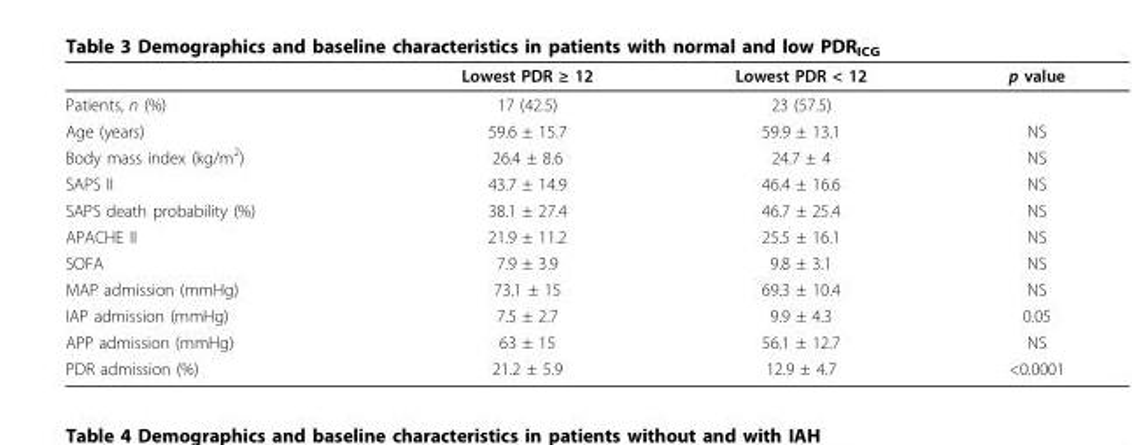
<table><thead><tr><td></td><td>Lowest PDR ≥ 12</td><td>Lowest PDR &lt; 12</td><td>p value</td></tr></thead><tbody><tr><td>Patients, n (%)</td><td>17 (42.5)</td><td>23 (57.5)</td><td></td></tr><tr><td>Age (years)</td><td>59.6 ± 15.7</td><td>59.9 ± 13.1</td><td>NS</td></tr><tr><td>Body mass index (kg/m<sup>2</sup>)</td><td>26.4 ± 8.6</td><td>24.7 ± 4</td><td>NS</td></tr><tr><td>SAPS II</td><td>43.7 ± 14.9</td><td>46.4 ± 16.6</td><td>NS</td></tr><tr><td>SAPS death probability (%)</td><td>38.1 ± 27.4</td><td>46.7 ± 25.4</td><td>NS</td></tr><tr><td>APACHE II</td><td>21.9 ± 11.2</td><td>25.5 ± 16.1</td><td>NS</td></tr><tr><td>SOFA</td><td>7.9 ± 3.9</td><td>9.8 ± 3.1</td><td>NS</td></tr><tr><td>MAP admission (mmHg)</td><td>73.1 ± 15</td><td>69.3 ± 10.4</td><td>NS</td></tr><tr><td>IAP admission (mmHg)</td><td>7.5 ± 2.7</td><td>9.9 ± 4.3</td><td>0.05</td></tr><tr><td>APP admission (mmHg)</td><td>63 ± 15</td><td>56.1 ± 12.7</td><td>NS</td></tr><tr><td>PDR admission (%)</td><td>21.2 ± 5.9</td><td>12.9 ± 4.7</td><td>&lt;0.0001</td></tr></tbody></table>